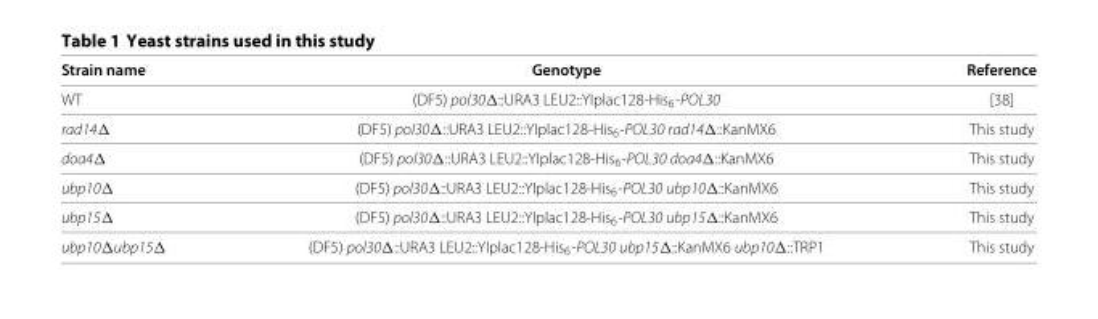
<table><thead><tr><td>Strain name</td><td>Genotype</td><td>Reference</td></tr></thead><tbody><tr><td>WT</td><td>(DF5) pol30δ::URA3 LEU2::YIplac128-His<sub>6</sub>-POL30</td><td>[38]</td></tr><tr><td>rad14δ</td><td>(DF5) pol30δ::URA3 LEU2::YIplac128-His<sub>6</sub>-POL30 rad14δ::KanMX6</td><td>This study</td></tr><tr><td>doa4δ</td><td>(DF5) pol30δ::URA3 LEU2::YIplac128-His<sub>6</sub>-POL30 doa4δ::KanMX6</td><td>This study</td></tr><tr><td>ubp10δ</td><td>(DF5) pol30δ::URA3 LEU2::YIplac128-His<sub>6</sub>-POL30 ubp10δ::KanMX6</td><td>This study</td></tr><tr><td>ubp15δ</td><td>(DF5) pol30δ::URA3 LEU2::YIplac128-His<sub>6</sub>-POL30 ubp15δ::KanMX6</td><td>This study</td></tr><tr><td>ubp10δubp15δ</td><td>(DF5) pol30δ::URA3 LEU2::YIplac128-His<sub>6</sub>-POL30 ubp15δ::KanMX6 ubp10δ::TRP1</td><td>This study</td></tr></tbody></table>